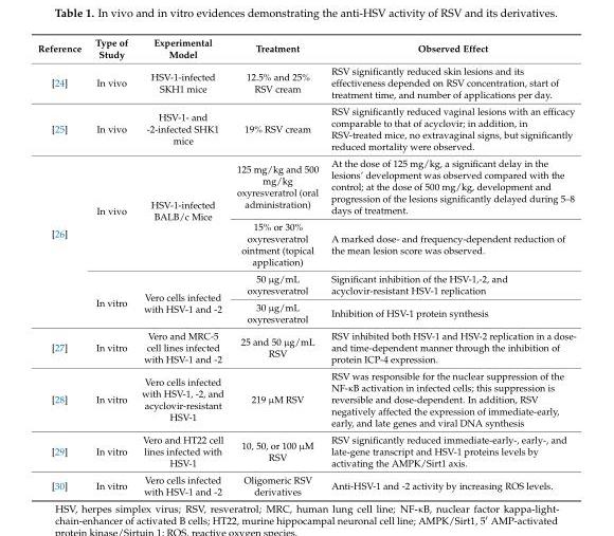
<table><thead><tr><td>Reference</td><td>Type of Study</td><td>Experimental Model</td><td>Treatment</td><td>Observed Effect</td></tr></thead><tbody><tr><td>[24]</td><td>In vivo</td><td>HSV-1-infected SKH1 mice</td><td>12.5% and 25% RSV cream</td><td>RSV significantly reduced skin lesions and its effectiveness depended on RSV concentration, start of treatment time, and number of applications per day.</td></tr><tr><td>[25]</td><td>In vivo</td><td>HSV-1- and -2-infected SHK1 mice</td><td>19% RSV cream</td><td>RSV significantly reduced vaginal lesions with an efficacy comparable to that of acyclovir; in addition, in RSV-treated mice, no extravaginal signs, but significantly reduced mortality were observed.</td></tr><tr><td rowspan="4">[26]</td><td rowspan="2">In vivo</td><td rowspan="2">HSV-1-infected BALB/c Mice</td><td>125 mg/kg and 500 mg/kg oxyresveratrol (oral administration)</td><td>At the dose of 125 mg/kg, a significant delay in the lesions’ development was observed compared with the control; at the dose of 500 mg/kg, development and progression of the lesions significantly delayed during 5–8 days of treatment.</td></tr><tr><td>15% or 30% oxyresveratrol ointment (topical application)</td><td>A marked dose- and frequency-dependent reduction of the mean lesion score was observed.</td></tr><tr><td rowspan="2">In vitro</td><td rowspan="2">Vero cells infected with HSV-1 and -2</td><td>50 µg/mL oxyresveratrol</td><td>Significant inhibition of the HSV-1,-2, and acyclovir-resistant HSV-1 replication</td></tr><tr><td>30 µg/mL oxyresveratrol</td><td>Inhibition of HSV-1 protein synthesis</td></tr><tr><td>[27]</td><td>In vitro</td><td>Vero and MRC-5 cell lines infected with HSV-1 and -2</td><td>25 and 50 µg/mL RSV</td><td>RSV inhibited both HSV-1 and HSV-2 replication in a dose- and time-dependent manner through the inhibition of protein ICP-4 expression.</td></tr><tr><td>[28]</td><td>In vitro</td><td>Vero cells infected with HSV-1, -2, and acyclovir-resistant HSV-1</td><td>219 µM RSV</td><td>RSV was responsible for the nuclear suppression of the NF-κB activation in infected cells; this suppression is reversible and dose-dependent. In addition, RSV negatively affected the expression of immediate-early, early, and late genes and viral DNA synthesis</td></tr><tr><td>[29]</td><td>In vitro</td><td>Vero and HT22 cell lines infected with HSV-1</td><td>10, 50, or 100 µM RSV</td><td>RSV significantly reduced immediate-early-, early-, and late-gene transcript and HSV-1 proteins levels by activating the AMPK/Sirt1 axis.</td></tr><tr><td>[30]</td><td>In vitro</td><td>Vero cells infected with HSV-1 and -2</td><td>Oligomeric RSV derivatives</td><td>Anti-HSV-1 and -2 activity by increasing ROS levels.</td></tr></tbody></table>